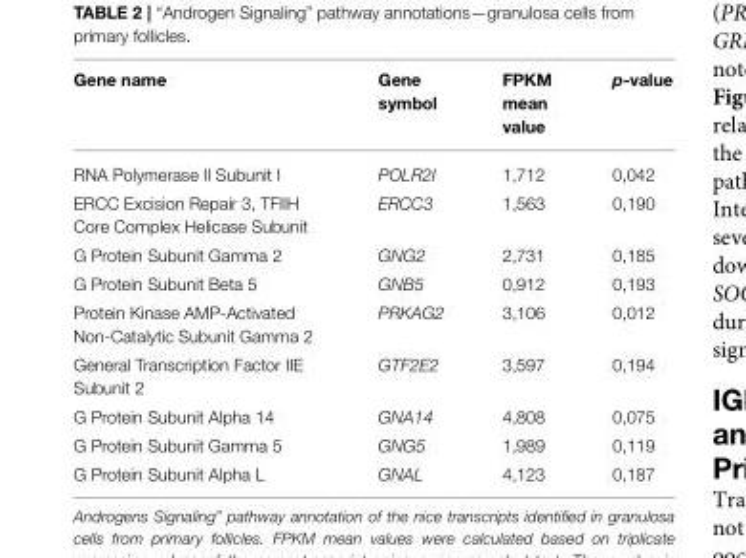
<table><thead><tr><td>Gene name</td><td>Gene symbol</td><td>FPKM mean value</td><td>p-value</td></tr></thead><tbody><tr><td>RNA Polymerase II Subunit I</td><td>POLR2I</td><td>1,712</td><td>0,042</td></tr><tr><td>ERCC Excision Repair 3, TFIIH Core Complex Helicase Subunit</td><td>ERCC3</td><td>1,563</td><td>0,190</td></tr><tr><td>G Protein Subunit Gamma 2</td><td>GNG2</td><td>2,731</td><td>0,185</td></tr><tr><td>G Protein Subunit Beta 5</td><td>GNB5</td><td>0,912</td><td>0,193</td></tr><tr><td>Protein Kinase AMP-Activated Non-Catalytic Subunit Gamma 2</td><td>PRKAG2</td><td>3,106</td><td>0,012</td></tr><tr><td>General Transcription Factor IIE Subunit 2</td><td>GTF2E2</td><td>3,597</td><td>0,194</td></tr><tr><td>G Protein Subunit Alpha 14</td><td>GNA14</td><td>4,808</td><td>0,075</td></tr><tr><td>G Protein Subunit Gamma 5</td><td>GNG5</td><td>1,989</td><td>0,119</td></tr><tr><td>G Protein Subunit Alpha L</td><td>GNAL</td><td>4,123</td><td>0,187</td></tr></tbody></table>